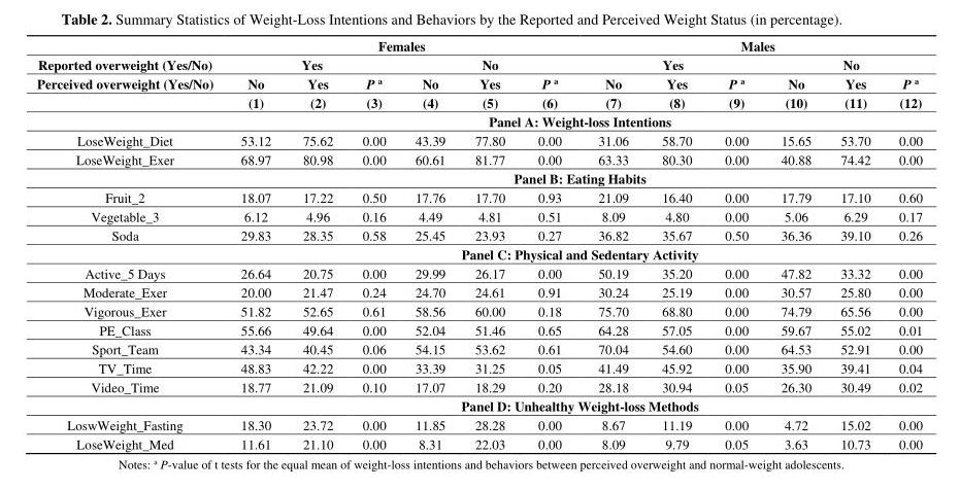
<table><thead><tr><td rowspan="4">Reported overweight (Yes/No) Perceived overweight (Yes/No)</td><td colspan="6">Females</td><td colspan="6">Males</td></tr><tr><td colspan="3">Yes</td><td colspan="3">No</td><td colspan="3">Yes</td><td colspan="3">No</td></tr><tr><td rowspan="2">No (1)</td><td rowspan="2">Yes (2)</td><td rowspan="2">P <sup>a</sup> (3)</td><td rowspan="2">No (4)</td><td rowspan="2">Yes (5)</td><td rowspan="2">P <sup>a</sup> (6)</td><td rowspan="2">No (7)</td><td rowspan="2">Yes (8)</td><td rowspan="2">P <sup>a</sup> (9)</td><td rowspan="2">No (10)</td><td rowspan="2">Yes (11)</td><td rowspan="2">P <sup>a</sup> (12)</td></tr><tr></tr></thead><tbody><tr><td></td><td colspan="12">Panel A: Weight-loss Intentions</td></tr><tr><td>LoseWeight_Diet</td><td>53.12</td><td>75.62</td><td>0.00</td><td>43.39</td><td>77.80</td><td>0.00</td><td>31.06</td><td>58.70</td><td>0.00</td><td>15.65</td><td>53.70</td><td>0.00</td></tr><tr><td rowspan="2">LoseWeight_Exer</td><td>68.97</td><td>80.98</td><td>0.00</td><td>60.61</td><td>81.77</td><td>0.00</td><td>63.33</td><td>80.30</td><td>0.00</td><td>40.88</td><td>74.42</td><td>0.00</td></tr><tr><td colspan="12">Panel B: Eating Habits</td></tr><tr><td>Fruit_2</td><td>18.07</td><td>17.22</td><td>0.50</td><td>17.76</td><td>17.70</td><td>0.93</td><td>21.09</td><td>16.40</td><td>0.00</td><td>17.79</td><td>17.10</td><td>0.60</td></tr><tr><td>Vegetable_3</td><td>6.12</td><td>4.96</td><td>0.16</td><td>4.49</td><td>4.81</td><td>0.51</td><td>8.09</td><td>4.80</td><td>0.00</td><td>5.06</td><td>6.29</td><td>0.17</td></tr><tr><td rowspan="2">Soda</td><td>29.83</td><td>28.35</td><td>0.58</td><td>25.45</td><td>23.93</td><td>0.27</td><td>36.82</td><td>35.67</td><td>0.50</td><td>36.36</td><td>39.10</td><td>0.26</td></tr><tr><td colspan="12">Panel C: Physical and Sedentary Activity</td></tr><tr><td>Active_5 Days</td><td>26.64</td><td>20.75</td><td>0.00</td><td>29.99</td><td>26.17</td><td>0.00</td><td>50.19</td><td>35.20</td><td>0.00</td><td>47.82</td><td>33.32</td><td>0.00</td></tr><tr><td>Moderate_Exer</td><td>20.00</td><td>21.47</td><td>0.24</td><td>24.70</td><td>24.61</td><td>0.91</td><td>30.24</td><td>25.19</td><td>0.00</td><td>30.57</td><td>25.80</td><td>0.00</td></tr><tr><td>Vigorous_Exer</td><td>51.82</td><td>52.65</td><td>0.61</td><td>58.56</td><td>60.00</td><td>0.18</td><td>75.70</td><td>68.80</td><td>0.00</td><td>74.79</td><td>65.56</td><td>0.00</td></tr><tr><td>PE_Class</td><td>55.66</td><td>49.64</td><td>0.00</td><td>52.04</td><td>51.46</td><td>0.65</td><td>64.28</td><td>57.05</td><td>0.00</td><td>59.67</td><td>55.02</td><td>0.01</td></tr><tr><td>Sport_Team</td><td>43.34</td><td>40.45</td><td>0.06</td><td>54.15</td><td>53.62</td><td>0.61</td><td>70.04</td><td>54.60</td><td>0.00</td><td>64.53</td><td>52.91</td><td>0.00</td></tr><tr><td>TV_Time</td><td>48.83</td><td>42.22</td><td>0.00</td><td>33.39</td><td>31.25</td><td>0.05</td><td>41.49</td><td>45.92</td><td>0.00</td><td>35.90</td><td>39.41</td><td>0.04</td></tr><tr><td rowspan="2">Video_Time</td><td>18.77</td><td>21.09</td><td>0.10</td><td>17.07</td><td>18.29</td><td>0.20</td><td>28.18</td><td>30.94</td><td>0.05</td><td>26.30</td><td>30.49</td><td>0.02</td></tr><tr><td colspan="12">Panel D: Unhealthy Weight-loss Methods</td></tr><tr><td>LoswWeight_Fasting</td><td>18.30</td><td>23.72</td><td>0.00</td><td>11.85</td><td>28.28</td><td>0.00</td><td>8.67</td><td>11.19</td><td>0.00</td><td>4.72</td><td>15.02</td><td>0.00</td></tr><tr><td>LoseWeight_Med</td><td>11.61</td><td>21.10</td><td>0.00</td><td>8.31</td><td>22.03</td><td>0.00</td><td>8.09</td><td>9.79</td><td>0.05</td><td>3.63</td><td>10.73</td><td>0.00</td></tr></tbody></table>